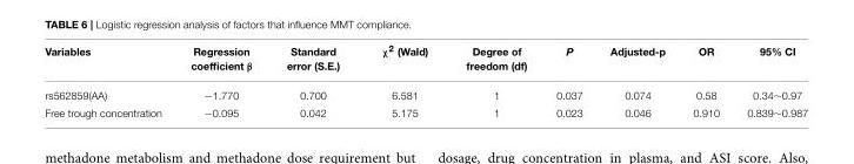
<table><thead><tr><td>Variables</td><td>Regression coefficient β</td><td>Standard error (S.E.)</td><td>χ<sup>2</sup> (Wald)</td><td>Degree of freedom (df)</td><td>P</td><td>Adjusted-p</td><td>OR</td><td>95% CI</td></tr></thead><tbody><tr><td>rs562859(AA)</td><td>−1.770</td><td>0.700</td><td>6.581</td><td>1</td><td>0.037</td><td>0.074</td><td>0.58</td><td>0.34∼0.97</td></tr><tr><td>Free trough concentration</td><td>−0.095</td><td>0.042</td><td>5.175</td><td>1</td><td>0.023</td><td>0.046</td><td>0.910</td><td>0.839∼0.987</td></tr></tbody></table>